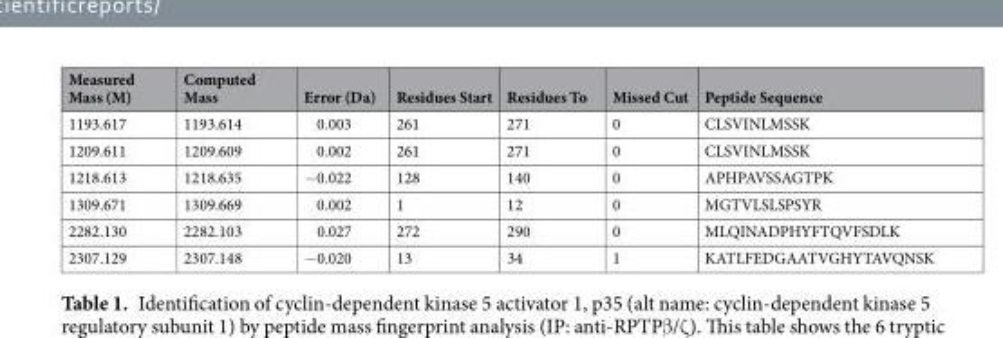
<table><thead><tr><td>Measured Mass (M)</td><td>Computed Mass</td><td>Error (Da)</td><td>Residues Start</td><td>Residues To</td><td>Missed Cut</td><td>Peptide Sequence</td></tr></thead><tbody><tr><td>1193.617</td><td>1193.614</td><td>0.003</td><td>261</td><td>271</td><td>0</td><td>CLSVINLMSSK</td></tr><tr><td>1209.611</td><td>1209.609</td><td>0.002</td><td>261</td><td>271</td><td>0</td><td>CLSVINLMSSK</td></tr><tr><td>1218.613</td><td>1218.635</td><td>−0.022</td><td>128</td><td>140</td><td>0</td><td>APHPAVSSAGTPK</td></tr><tr><td>1309.671</td><td>1309.669</td><td>0.002</td><td>1</td><td>12</td><td>0</td><td>MGTVLSLSPSYR</td></tr><tr><td>2282.130</td><td>2282.103</td><td>0.027</td><td>272</td><td>290</td><td>0</td><td>MLQINADPHYFTQVFSDLK</td></tr><tr><td>2307.129</td><td>2307.148</td><td>−0.020</td><td>13</td><td>34</td><td>1</td><td>KATLFEDGAATVGHYTAVQNSK</td></tr></tbody></table>